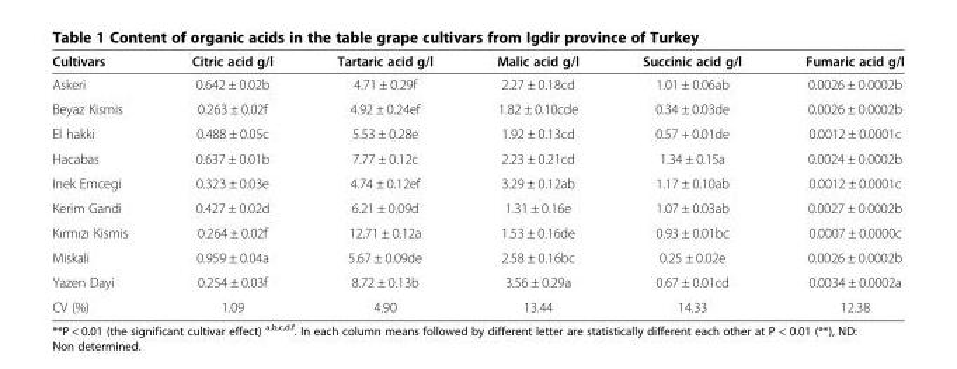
<table><thead><tr><td>Cultivars</td><td>Citric acid g/l</td><td>Tartaric acid g/l</td><td>Malic acid g/l</td><td>Succinic acid g/l</td><td>Fumaric acid g/l</td></tr></thead><tbody><tr><td>Askeri</td><td>0.642 ± 0.02b</td><td>4.71 ± 0.29f</td><td>2.27 ± 0.18cd</td><td>1.01 ± 0.06ab</td><td>0.0026 ± 0.0002b</td></tr><tr><td>Beyaz Kismis</td><td>0.263 ± 0.02f</td><td>4.92 ± 0.24ef</td><td>1.82 ± 0.10cde</td><td>0.34 ± 0.03de</td><td>0.0026 ± 0.0002b</td></tr><tr><td>El hakki</td><td>0.488 ± 0.05c</td><td>5.53 ± 0.28e</td><td>1.92 ± 0.13cd</td><td>0.57 + 0.01de</td><td>0.0012 ± 0.0001c</td></tr><tr><td>Hacabas</td><td>0.637 ± 0.01b</td><td>7.77 ± 0.12c</td><td>2.23 ± 0.21cd</td><td>1.34 ± 0.15a</td><td>0.0024 ± 0.0002b</td></tr><tr><td>Inek Emcegi</td><td>0.323 ± 0.03e</td><td>4.74 ± 0.12ef</td><td>3.29 ± 0.12ab</td><td>1.17 ± 0.10ab</td><td>0.0012 ± 0.0001c</td></tr><tr><td>Kerim Gandi</td><td>0.427 ± 0.02d</td><td>6.21 ± 0.09d</td><td>1.31 ± 0.16e</td><td>1.07 ± 0.03ab</td><td>0.0027 ± 0.0002b</td></tr><tr><td>Kırmızı Kismis</td><td>0.264 ± 0.02f</td><td>12.71 ± 0.12a</td><td>1.53 ± 0.16de</td><td>0.93 ± 0.01bc</td><td>0.0007 ± 0.0000c</td></tr><tr><td>Miskali</td><td>0.959 ± 0.04a</td><td>5.67 ± 0.09de</td><td>2.58 ± 0.16bc</td><td>0.25 ± 0.02e</td><td>0.0026 ± 0.0002b</td></tr><tr><td>Yazen Dayi</td><td>0.254 ± 0.03f</td><td>8.72 ± 0.13b</td><td>3.56 ± 0.29a</td><td>0.67 ± 0.01cd</td><td>0.0034 ± 0.0002a</td></tr><tr><td>CV (%)</td><td>1.09</td><td>4.90</td><td>13.44</td><td>14.33</td><td>12.38</td></tr></tbody></table>